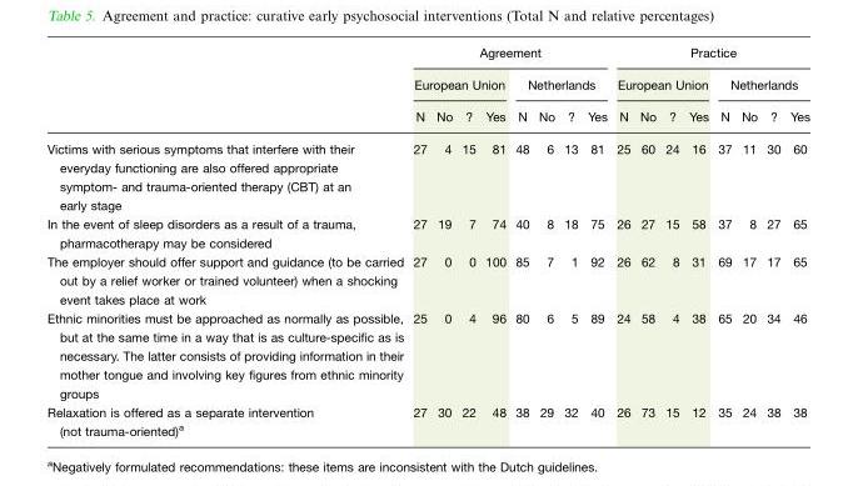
<table><thead><tr><td rowspan="3"></td><td colspan="8">Agreement</td><td colspan="8">Practice</td></tr><tr><td colspan="4">European Union</td><td colspan="4">Netherlands</td><td colspan="4">European Union</td><td colspan="4">Netherlands</td></tr><tr><td>N</td><td>No</td><td>?</td><td>Yes</td><td>N</td><td>No</td><td>?</td><td>Yes</td><td>N</td><td>No</td><td>?</td><td>Yes</td><td>N</td><td>No</td><td>?</td><td>Yes</td></tr></thead><tbody><tr><td>Victims with serious symptoms that interfere with their everyday functioning are also offered appropriate symptom- and trauma-oriented therapy (CBT) at an early stage</td><td>27</td><td>4</td><td>15</td><td>81</td><td>48</td><td>6</td><td>13</td><td>81</td><td>25</td><td>60</td><td>24</td><td>16</td><td>37</td><td>11</td><td>30</td><td>60</td></tr><tr><td>In the event of sleep disorders as a result of a trauma, pharmacotherapy may be considered</td><td>27</td><td>19</td><td>7</td><td>74</td><td>40</td><td>8</td><td>18</td><td>75</td><td>26</td><td>27</td><td>15</td><td>58</td><td>37</td><td>8</td><td>27</td><td>65</td></tr><tr><td>The employer should offer support and guidance (to be carried out by a relief worker or trained volunteer) when a shocking event takes place at work</td><td>27</td><td>0</td><td>0</td><td>100</td><td>85</td><td>7</td><td>1</td><td>92</td><td>26</td><td>62</td><td>8</td><td>31</td><td>69</td><td>17</td><td>17</td><td>65</td></tr><tr><td>Ethnic minorities must be approached as normally as possible, but at the same time in a way that is as culture-specific as is necessary. The latter consists of providing information in their mother tongue and involving key figures from ethnic minority groups</td><td>25</td><td>0</td><td>4</td><td>96</td><td>80</td><td>6</td><td>5</td><td>89</td><td>24</td><td>58</td><td>4</td><td>38</td><td>65</td><td>20</td><td>34</td><td>46</td></tr><tr><td>Relaxation is offered as a separate intervention (not trauma-oriented)<sup>a</sup></td><td>27</td><td>30</td><td>22</td><td>48</td><td>38</td><td>29</td><td>32</td><td>40</td><td>26</td><td>73</td><td>15</td><td>12</td><td>35</td><td>24</td><td>38</td><td>38</td></tr></tbody></table>